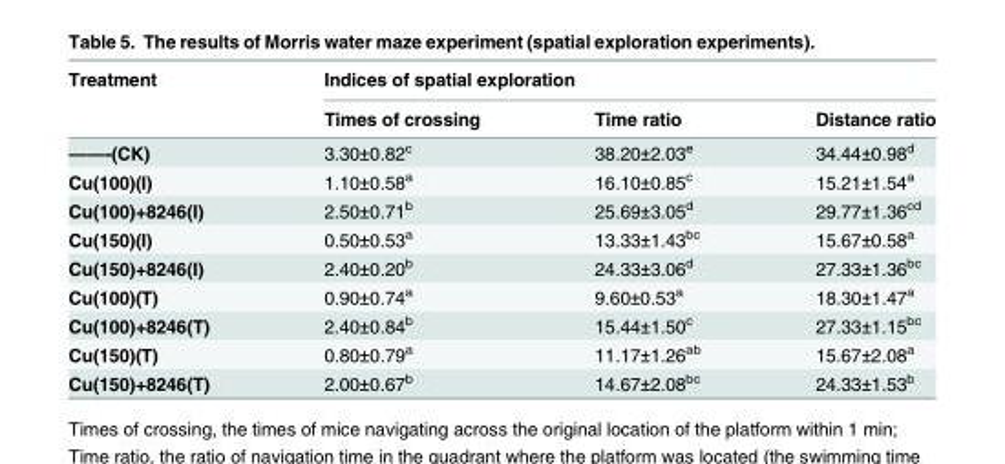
<table><thead><tr><td rowspan="2">Treatment</td><td colspan="3">Indices of spatial exploration</td></tr><tr><td>Times of crossing</td><td>Time ratio</td><td>Distance ratio</td></tr></thead><tbody><tr><td>——-(CK)</td><td>3.30±0.82<sup>c</sup></td><td>38.20±2.03<sup>e</sup></td><td>34.44±0.98<sup>d</sup></td></tr><tr><td>Cu(100)(I)</td><td>1.10±0.58<sup>a</sup></td><td>16.10±0.85<sup>c</sup></td><td>15.21±1.54<sup>a</sup></td></tr><tr><td>Cu(100)+8246(I)</td><td>2.50±0.71<sup>b</sup></td><td>25.69±3.05<sup>d</sup></td><td>29.77±1.36<sup>cd</sup></td></tr><tr><td>Cu(150)(I)</td><td>0.50±0.53<sup>a</sup></td><td>13.33±1.43<sup>bc</sup></td><td>15.67±0.58<sup>a</sup></td></tr><tr><td>Cu(150)+8246(I)</td><td>2.40±0.20<sup>b</sup></td><td>24.33±3.06<sup>d</sup></td><td>27.33±1.36<sup>bc</sup></td></tr><tr><td>Cu(100)(T)</td><td>0.90±0.74<sup>a</sup></td><td>9.60±0.53<sup>a</sup></td><td>18.30±1.47<sup>a</sup></td></tr><tr><td>Cu(100)+8246(T)</td><td>2.40±0.84<sup>b</sup></td><td>15.44±1.50<sup>c</sup></td><td>27.33±1.15<sup>bc</sup></td></tr><tr><td>Cu(150)(T)</td><td>0.80±0.79<sup>a</sup></td><td>11.17±1.26<sup>ab</sup></td><td>15.67±2.08<sup>a</sup></td></tr><tr><td>Cu(150)+8246(T)</td><td>2.00±0.67<sup>b</sup></td><td>14.67±2.08<sup>bc</sup></td><td>24.33±1.53<sup>b</sup></td></tr></tbody></table>